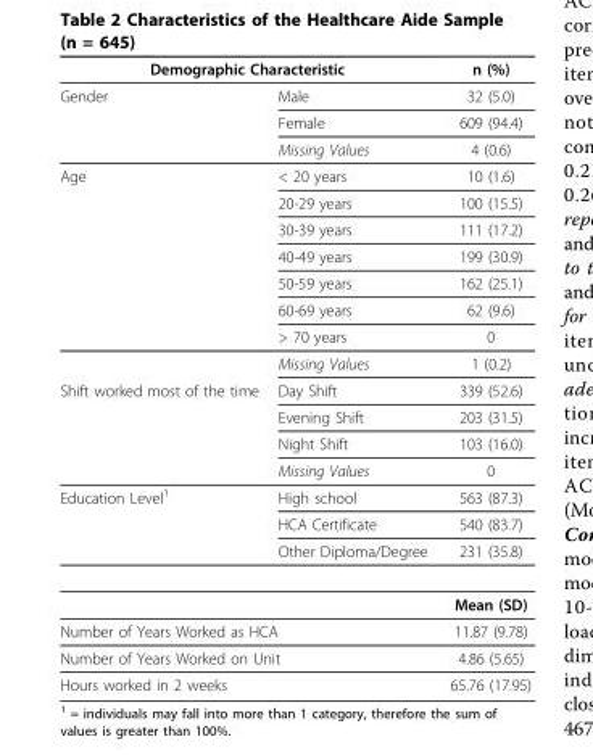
<table><thead><tr><td colspan="2">Demographic Characteristic</td><td rowspan="2">n (%) 32 (5.0)</td></tr><tr><td>Gender</td><td>Male</td></tr></thead><tbody><tr><td></td><td>Female</td><td>609 (94.4)</td></tr><tr><td></td><td>Missing Values</td><td>4 (0.6)</td></tr><tr><td rowspan="8">Age</td><td>&lt; 20 years</td><td>10 (1.6)</td></tr><tr><td>20-29 years</td><td>100 (15.5)</td></tr><tr><td>30-39 years</td><td>111 (17.2)</td></tr><tr><td>40-49 years</td><td>199 (30.9)</td></tr><tr><td>50-59 years</td><td>162 (25.1)</td></tr><tr><td>60-69 years</td><td>62 (9.6)</td></tr><tr><td>&gt; 70 years</td><td>0</td></tr><tr><td>Missing Values</td><td>1 (0.2)</td></tr><tr><td rowspan="4">Shift worked most of the time</td><td>Day Shift</td><td>339 (52.6)</td></tr><tr><td>Evening Shift</td><td>203 (31.5)</td></tr><tr><td>Night Shift</td><td>103 (16.0)</td></tr><tr><td>Missing Values</td><td>0</td></tr><tr><td rowspan="3">Education Level<sup>1</sup></td><td>High school</td><td>563 (87.3)</td></tr><tr><td>HCA Certificate</td><td>540 (83.7)</td></tr><tr><td>Other Diploma/Degree</td><td>231 (35.8)</td></tr><tr><td colspan="2"></td><td>Mean (SD)</td></tr><tr><td colspan="2">Number of Years Worked as HCA</td><td>11.87 (9.78)</td></tr><tr><td colspan="2">Number of Years Worked on Unit</td><td>4.86 (5.65)</td></tr><tr><td colspan="2">Hours worked in 2 weeks</td><td>65.76 (17.95)</td></tr></tbody></table>